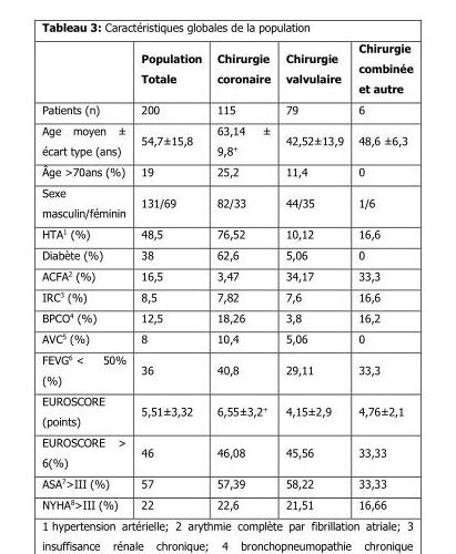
<table><thead><tr><td></td><td>Population Totale</td><td>Chirurgie coronaire</td><td>Chirurgie valvulaire</td><td>Chirurgie combinée et autre</td></tr></thead><tbody><tr><td>Patients (n)</td><td>200</td><td>115</td><td>79</td><td>6</td></tr><tr><td>Age moyen ± écart type (ans)</td><td>54,7±15,8</td><td>63,14 ± 9,8<sup>+</sup></td><td>42,52±13,9</td><td>48,6 ±6,3</td></tr><tr><td>Âge &gt;70ans (%)</td><td>19</td><td>25,2</td><td>11,4</td><td>0</td></tr><tr><td>Sexe masculin/féminin</td><td>131/69</td><td>82/33</td><td>44/35</td><td>1/6</td></tr><tr><td>HTA<sup>1</sup> (%)</td><td>48,5</td><td>76,52</td><td>10,12</td><td>16,6</td></tr><tr><td>Diabète (%)</td><td>38</td><td>62,6</td><td>5,06</td><td>0</td></tr><tr><td>ACFA<sup>2</sup> (%)</td><td>16,5</td><td>3,47</td><td>34,17</td><td>33,3</td></tr><tr><td>IRC<sup>3</sup> (%)</td><td>8,5</td><td>7,82</td><td>7,6</td><td>16,6</td></tr><tr><td>BPCO<sup>4</sup> (%)</td><td>12,5</td><td>18,26</td><td>3,8</td><td>16,2</td></tr><tr><td>AVC<sup>5</sup> (%)</td><td>8</td><td>10,4</td><td>5,06</td><td>0</td></tr><tr><td>FEVG<sup>6</sup> &lt; 50% (%)</td><td>36</td><td>40,8</td><td>29,11</td><td>33,3</td></tr><tr><td>EUROSCORE (points)</td><td>5,51±3,32</td><td>6,55±3,2<sup>+</sup></td><td>4,15±2,9</td><td>4,76±2,1</td></tr><tr><td>EUROSCORE &gt; 6(%)</td><td>46</td><td>46,08</td><td>45,56</td><td>33,33</td></tr><tr><td>ASA<sup>7</sup>&gt;III (%)</td><td>57</td><td>57,39</td><td>58,22</td><td>33,33</td></tr><tr><td>NYHA<sup>8</sup>&gt;III (%)</td><td>22</td><td>22,6</td><td>21,51</td><td>16,66</td></tr></tbody></table>